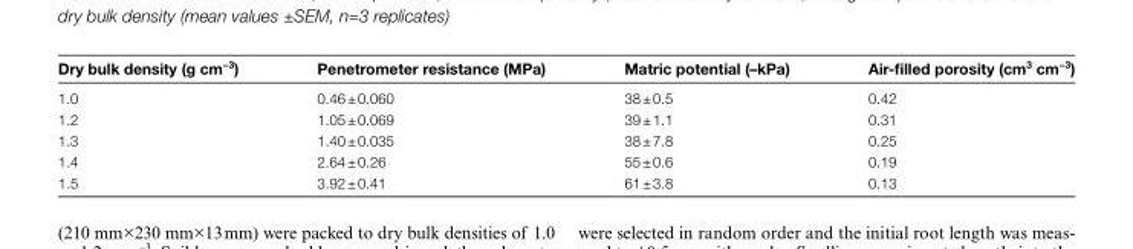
<table><thead><tr><td>Dry bulk density (g cm<sup>−3</sup>)</td><td>Penetrometer resistance (MPa)</td><td>Matric potential (–kPa)</td><td>Air-filled porosity (cm<sup>3</sup> cm<sup>−3</sup>)</td></tr></thead><tbody><tr><td>1.0</td><td>0.46 ± 0.060</td><td>38 ± 0.5</td><td>0.42</td></tr><tr><td>1.2</td><td>1.05 ± 0.069</td><td>39 ± 1.1</td><td>0.31</td></tr><tr><td>1.3</td><td>1.40 ± 0.035</td><td>38 ± 7.8</td><td>0.25</td></tr><tr><td>1.4</td><td>2.64 ± 0.26</td><td>55 ± 0.6</td><td>0.19</td></tr><tr><td>1.5</td><td>3.92 ± 0.41</td><td>61 ± 3.8</td><td>0.13</td></tr></tbody></table>